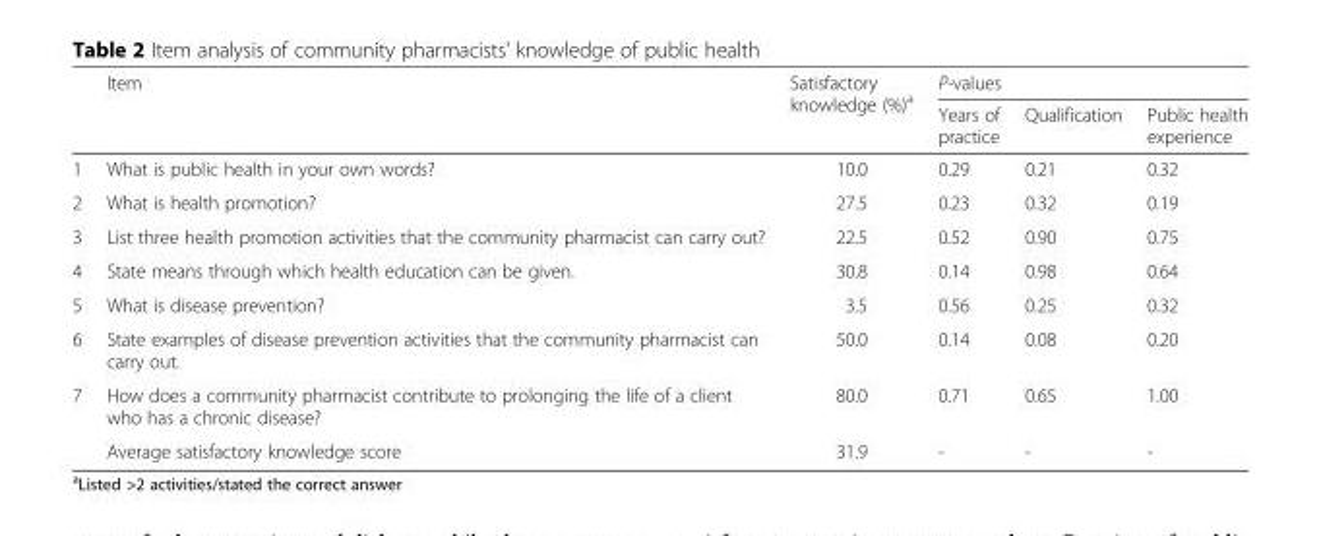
<table><thead><tr><td rowspan="2"></td><td rowspan="2">Item</td><td rowspan="2">Satisfactory knowledge (%)<sup>a</sup></td><td colspan="3">P-values</td></tr><tr><td>Years of practice</td><td>Qualification</td><td>Public health experience</td></tr></thead><tbody><tr><td>1</td><td>What is public health in your own words?</td><td>10.0</td><td>0.29</td><td>0.21</td><td>0.32</td></tr><tr><td>2</td><td>What is health promotion?</td><td>27.5</td><td>0.23</td><td>0.32</td><td>0.19</td></tr><tr><td>3</td><td>List three health promotion activities that the community pharmacist can carry out?</td><td>22.5</td><td>0.52</td><td>0.90</td><td>0.75</td></tr><tr><td>4</td><td>State means through which health education can be given.</td><td>30.8</td><td>0.14</td><td>0.98</td><td>0.64</td></tr><tr><td>5</td><td>What is disease prevention?</td><td>3.5</td><td>0.56</td><td>0.25</td><td>0.32</td></tr><tr><td>6</td><td>State examples of disease prevention activities that the community pharmacist can carry out.</td><td>50.0</td><td>0.14</td><td>0.08</td><td>0.20</td></tr><tr><td rowspan="2">7</td><td>How does a community pharmacist contribute to prolonging the life of a client who has a chronic disease?</td><td>80.0</td><td>0.71</td><td>0.65</td><td>1.00</td></tr><tr><td>Average satisfactory knowledge score</td><td>31.9</td><td>-</td><td>-</td><td>-</td></tr></tbody></table>